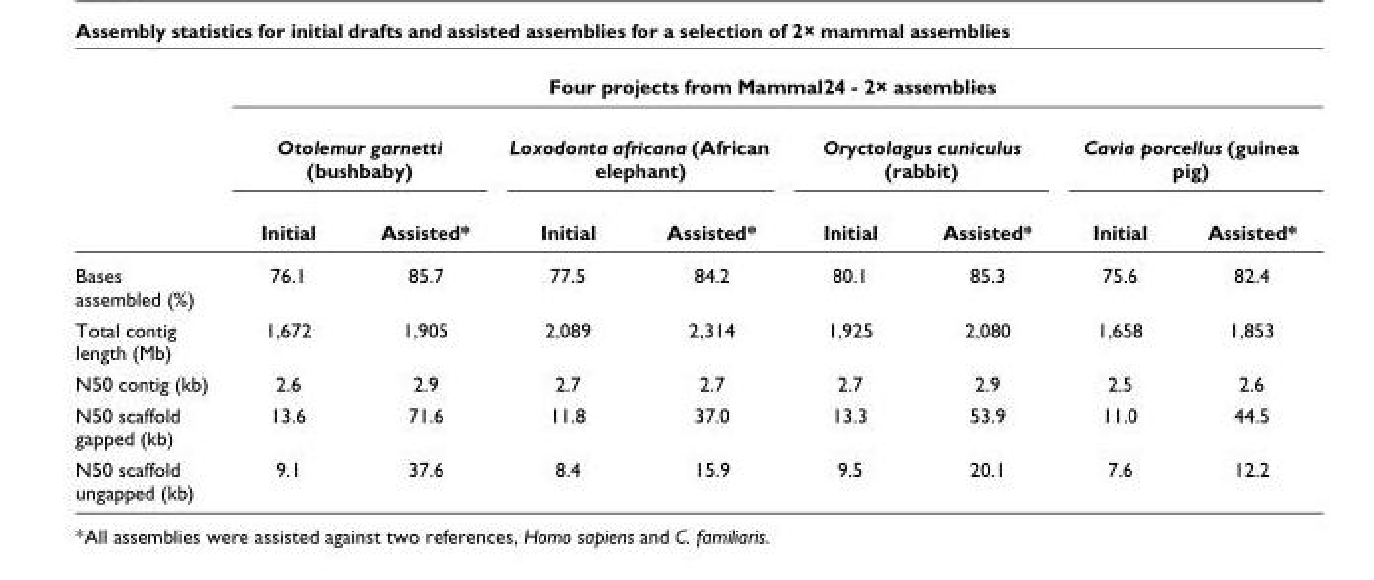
<table><thead><tr><td rowspan="3"></td><td colspan="8">Four projects from Mammal24 - 2× assemblies</td></tr><tr><td colspan="2">Otolemur garnetti (bushbaby)</td><td colspan="2">Loxodonta africana (African elephant)</td><td colspan="2">Oryctolagus cuniculus (rabbit)</td><td colspan="2">Cavia porcellus (guinea pig)</td></tr><tr><td>Initial</td><td>Assisted*</td><td>Initial</td><td>Assisted*</td><td>Initial</td><td>Assisted*</td><td>Initial</td><td>Assisted*</td></tr></thead><tbody><tr><td>Bases assembled (%)</td><td>76.1</td><td>85.7</td><td>77.5</td><td>84.2</td><td>80.1</td><td>85.3</td><td>75.6</td><td>82.4</td></tr><tr><td>Total contig length (Mb)</td><td>1,672</td><td>1,905</td><td>2,089</td><td>2,314</td><td>1,925</td><td>2,080</td><td>1,658</td><td>1,853</td></tr><tr><td>N50 contig (kb)</td><td>2.6</td><td>2.9</td><td>2.7</td><td>2.7</td><td>2.7</td><td>2.9</td><td>2.5</td><td>2.6</td></tr><tr><td>N50 scaffold gapped (kb)</td><td>13.6</td><td>71.6</td><td>11.8</td><td>37.0</td><td>13.3</td><td>53.9</td><td>11.0</td><td>44.5</td></tr><tr><td>N50 scaffold ungapped (kb)</td><td>9.1</td><td>37.6</td><td>8.4</td><td>15.9</td><td>9.5</td><td>20.1</td><td>7.6</td><td>12.2</td></tr></tbody></table>